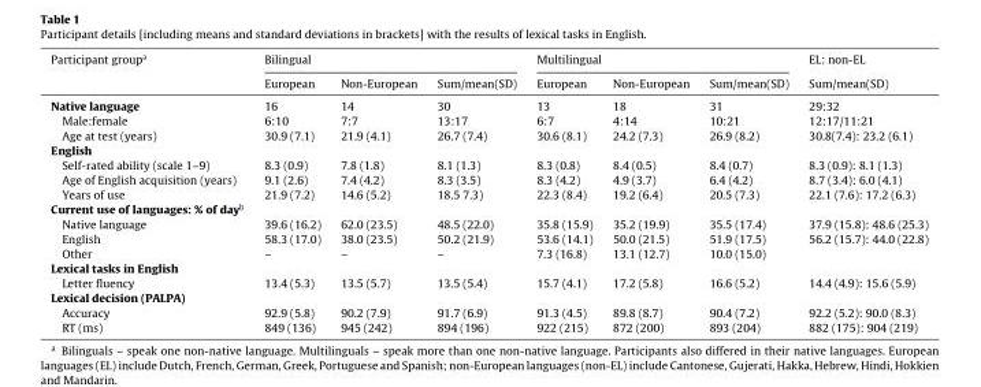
<table><thead><tr><td rowspan="2">Participant group<sup>a</sup></td><td colspan="3">Bilingual</td><td colspan="3">Multilingual</td><td rowspan="2">EL: non-EL Sum/mean(SD)</td></tr><tr><td>European</td><td>Non-European</td><td>Sum/mean(SD)</td><td>European</td><td>Non-European</td><td>Sum/mean(SD)</td></tr></thead><tbody><tr><td>Native language</td><td>16</td><td>14</td><td>30</td><td>13</td><td>18</td><td>31</td><td>29:32</td></tr><tr><td>Male:female</td><td>6:10</td><td>7:7</td><td>13:17</td><td>6:7</td><td>4:14</td><td>10:21</td><td>12:17/11:21</td></tr><tr><td>Age at test (years)</td><td>30.9 (7.1)</td><td>21.9 (4.1)</td><td>26.7 (7.4)</td><td>30.6 (8.1)</td><td>24.2 (7.3)</td><td>26.9 (8.2)</td><td>30.8(7.4): 23.2 (6.1)</td></tr><tr><td colspan="8">English</td></tr><tr><td>Self-rated ability (scale 1–9)</td><td>8.3 (0.9)</td><td>7.8 (1.8)</td><td>8.1 (1.3)</td><td>8.3 (0.8)</td><td>8.4 (0.5)</td><td>8.4 (0.7)</td><td>8.3 (0.9): 8.1 (1.3)</td></tr><tr><td>Age of English acquisition (years)</td><td>9.1 (2.6)</td><td>7.4 (4.2)</td><td>8.3 (3.5)</td><td>8.3 (4.2)</td><td>4.9 (3.7)</td><td>6.4 (4.2)</td><td>8.7 (3.4): 6.0 (4.1)</td></tr><tr><td>Years of use</td><td>21.9 (7.2)</td><td>14.6 (5.2)</td><td>18.5 7.3)</td><td>22.3 (8.4)</td><td>19.2 (6.4)</td><td>20.5 (7.3)</td><td>22.1 (7.6): 17.2 (6.3)</td></tr><tr><td colspan="8">Current use of languages: % of day<sup>b</sup></td></tr><tr><td>Native language</td><td>39.6 (16.2)</td><td>62.0 (23.5)</td><td>48.5 (22.0)</td><td>35.8 (15.9)</td><td>35.2 (19.9)</td><td>35.5 (17.4)</td><td>37.9 (15.8): 48.6 (25.3)</td></tr><tr><td>English</td><td>58.3 (17.0)</td><td>38.0 (23.5)</td><td>50.2 (21.9)</td><td>53.6 (14.1)</td><td>50.0 (21.5)</td><td>51.9 (17.5)</td><td>56.2 (15.7): 44.0 (22.8)</td></tr><tr><td>Other</td><td>–</td><td>–</td><td>–</td><td>7.3 (16.8)</td><td>13.1 (12.7)</td><td>10.0 (15.0)</td><td></td></tr><tr><td colspan="8">Lexical tasks in English</td></tr><tr><td>Letter fluency</td><td>13.4 (5.3)</td><td>13.5 (5.7)</td><td>13.5 (5.4)</td><td>15.7 (4.1)</td><td>17.2 (5.8)</td><td>16.6 (5.2)</td><td>14.4 (4.9): 15.6 (5.9)</td></tr><tr><td colspan="8">Lexical decision (PALPA)</td></tr><tr><td>Accuracy</td><td>92.9 (5.8)</td><td>90.2 (7.9)</td><td>91.7 (6.9)</td><td>91.3 (4.5)</td><td>89.8 (8.7)</td><td>90.4 (7.2)</td><td>92.2 (5.2): 90.0 (8.3)</td></tr><tr><td>RT (ms)</td><td>849 (136)</td><td>945 (242)</td><td>894 (196)</td><td>922 (215)</td><td>872 (200)</td><td>893 (204)</td><td>882 (175): 904 (219)</td></tr></tbody></table>